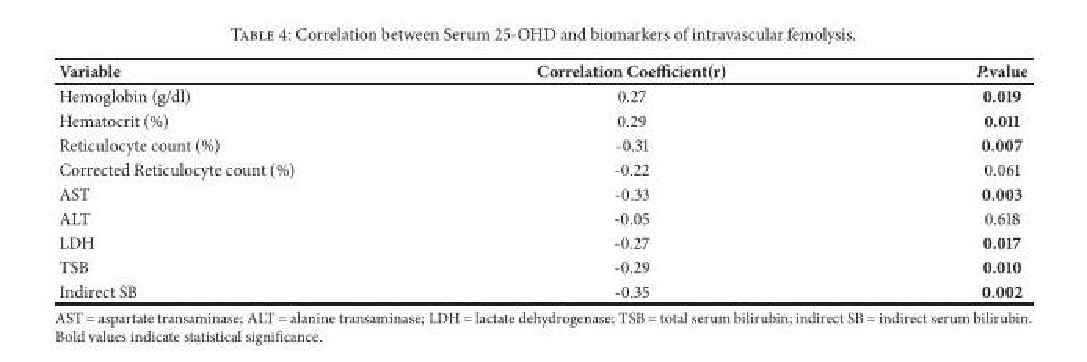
<table><thead><tr><td>Variable</td><td>Correlation Coefficient(r)</td><td>P.value</td></tr></thead><tbody><tr><td>Hemoglobin (g/dl)</td><td>0.27</td><td>0.019</td></tr><tr><td>Hematocrit (%)</td><td>0.29</td><td>0.011</td></tr><tr><td>Reticulocyte count (%)</td><td>-0.31</td><td>0.007</td></tr><tr><td>Corrected Reticulocyte count (%)</td><td>-0.22</td><td>0.061</td></tr><tr><td>AST</td><td>-0.33</td><td>0.003</td></tr><tr><td>ALT</td><td>-0.05</td><td>0.618</td></tr><tr><td>LDH</td><td>-0.27</td><td>0.017</td></tr><tr><td>TSB</td><td>-0.29</td><td>0.010</td></tr><tr><td>Indirect SB</td><td>-0.35</td><td>0.002</td></tr></tbody></table>